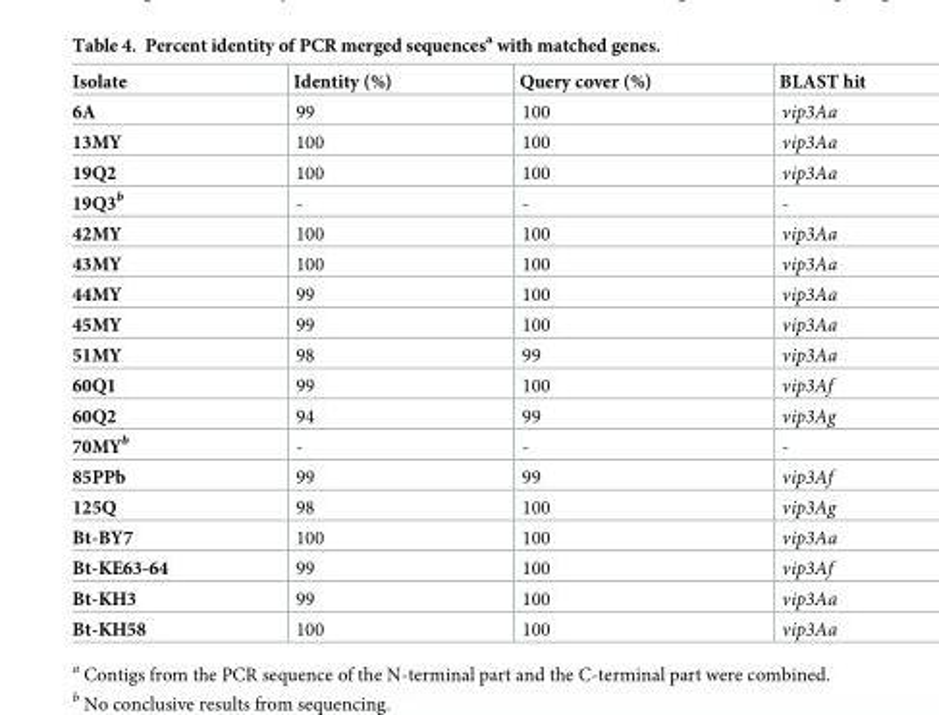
<table><thead><tr><td>Isolate</td><td>Identity (%)</td><td>Query cover (%)</td><td>BLAST hit</td></tr></thead><tbody><tr><td>6A</td><td>99</td><td>100</td><td>vip3Aa</td></tr><tr><td>13MY</td><td>100</td><td>100</td><td>vip3Aa</td></tr><tr><td>19Q2</td><td>100</td><td>100</td><td>vip3Aa</td></tr><tr><td>19Q3<sup>b</sup></td><td>-</td><td>-</td><td>-</td></tr><tr><td>42MY</td><td>100</td><td>100</td><td>vip3Aa</td></tr><tr><td>43MY</td><td>100</td><td>100</td><td>vip3Aa</td></tr><tr><td>44MY</td><td>99</td><td>100</td><td>vip3Aa</td></tr><tr><td>45MY</td><td>99</td><td>100</td><td>vip3Aa</td></tr><tr><td>51MY</td><td>98</td><td>99</td><td>vip3Aa</td></tr><tr><td>60Q1</td><td>99</td><td>100</td><td>vip3Af</td></tr><tr><td>60Q2</td><td>94</td><td>99</td><td>vip3Ag</td></tr><tr><td>70MY<sup>b</sup></td><td>-</td><td>-</td><td>-</td></tr><tr><td>85PPb</td><td>99</td><td>99</td><td>vip3Af</td></tr><tr><td>125Q</td><td>98</td><td>100</td><td>vip3Ag</td></tr><tr><td>Bt-BY7</td><td>100</td><td>100</td><td>vip3Aa</td></tr><tr><td>Bt-KE63-64</td><td>99</td><td>100</td><td>vip3Af</td></tr><tr><td>Bt-KH3</td><td>99</td><td>100</td><td>vip3Aa</td></tr><tr><td>Bt-KH58</td><td>100</td><td>100</td><td>vip3Aa</td></tr></tbody></table>